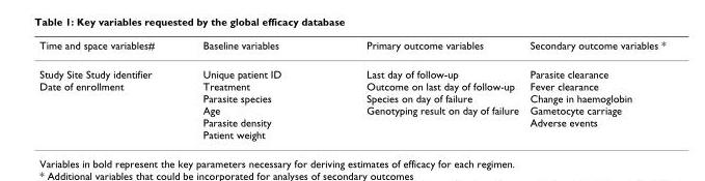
<table><thead><tr><td>Time and space variables#</td><td>Baseline variables</td><td>Primary outcome variables</td><td>Secondary outcome variables *</td></tr></thead><tbody><tr><td>Study Site Study identifier Date of enrollment</td><td>Unique patient ID Treatment Parasite species Age Parasite density Patient weight</td><td>Last day of follow-up Outcome on last day of follow-up Species on day of failure Genotyping result on day of failure</td><td>Parasite clearance Fever clearance Change in haemoglobin Gametocyte carriage Adverse events</td></tr></tbody></table>